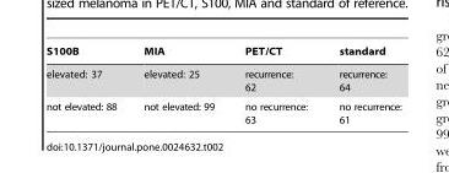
<table><thead><tr><td>S100B</td><td>MIA</td><td>PET/CT</td><td>standard</td></tr></thead><tbody><tr><td>elevated: 37</td><td>elevated: 25</td><td>recurrence: 62</td><td>recurrence: 64</td></tr><tr><td>not elevated: 88</td><td>not elevated: 99</td><td>no recurrence: 63</td><td>no recurrence: 61</td></tr></tbody></table>